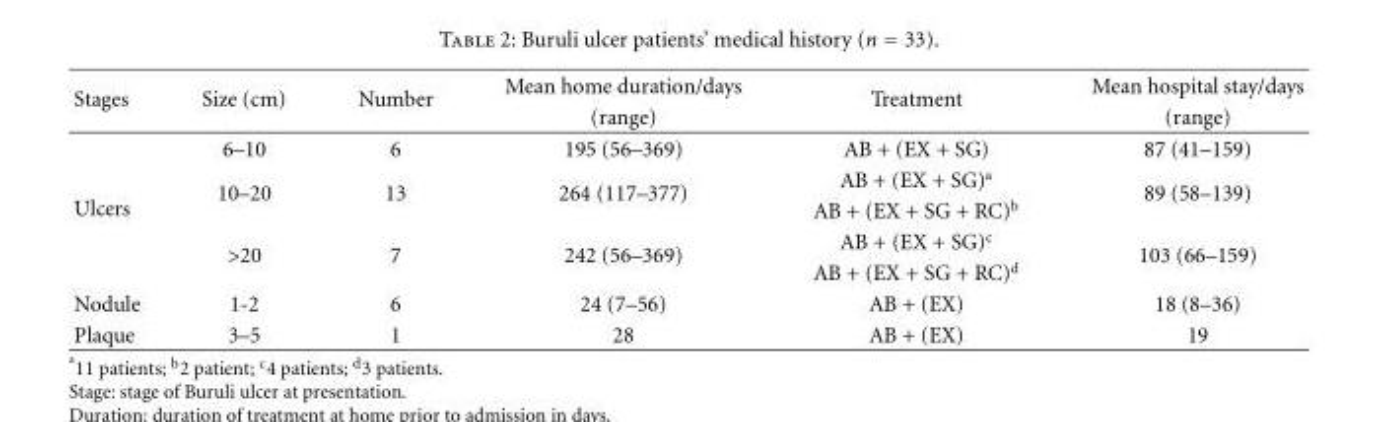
<table><thead><tr><td rowspan="2">Stages</td><td rowspan="2">Size (cm)</td><td rowspan="2">Number</td><td rowspan="2">Mean home duration/days (range)</td><td rowspan="2">Treatment</td><td rowspan="2">Mean hospital stay/days (range)</td></tr><tr></tr></thead><tbody><tr><td rowspan="5">Ulcers</td><td>6–10</td><td>6</td><td>195 (56–369)</td><td>AB + (EX + SG)</td><td>87 (41–159)</td></tr><tr><td rowspan="2">10–20</td><td rowspan="2">13</td><td rowspan="2">264 (117–377)</td><td>AB + (EX + SG)<sup>a</sup></td><td rowspan="2">89 (58–139)</td></tr><tr><td>AB + (EX + SG + RC)<sup>b</sup></td></tr><tr><td rowspan="2">&gt;20</td><td rowspan="2">7</td><td rowspan="2">242 (56–369)</td><td>AB + (EX + SG)<sup>c</sup></td><td rowspan="2">103 (66–159)</td></tr><tr><td>AB + (EX + SG + RC)<sup>d</sup></td></tr><tr><td>Nodule</td><td>1-2</td><td>6</td><td>24 (7–56)</td><td>AB + (EX)</td><td>18 (8–36)</td></tr><tr><td>Plaque</td><td>3–5</td><td>1</td><td>28</td><td>AB + (EX)</td><td>19</td></tr></tbody></table>